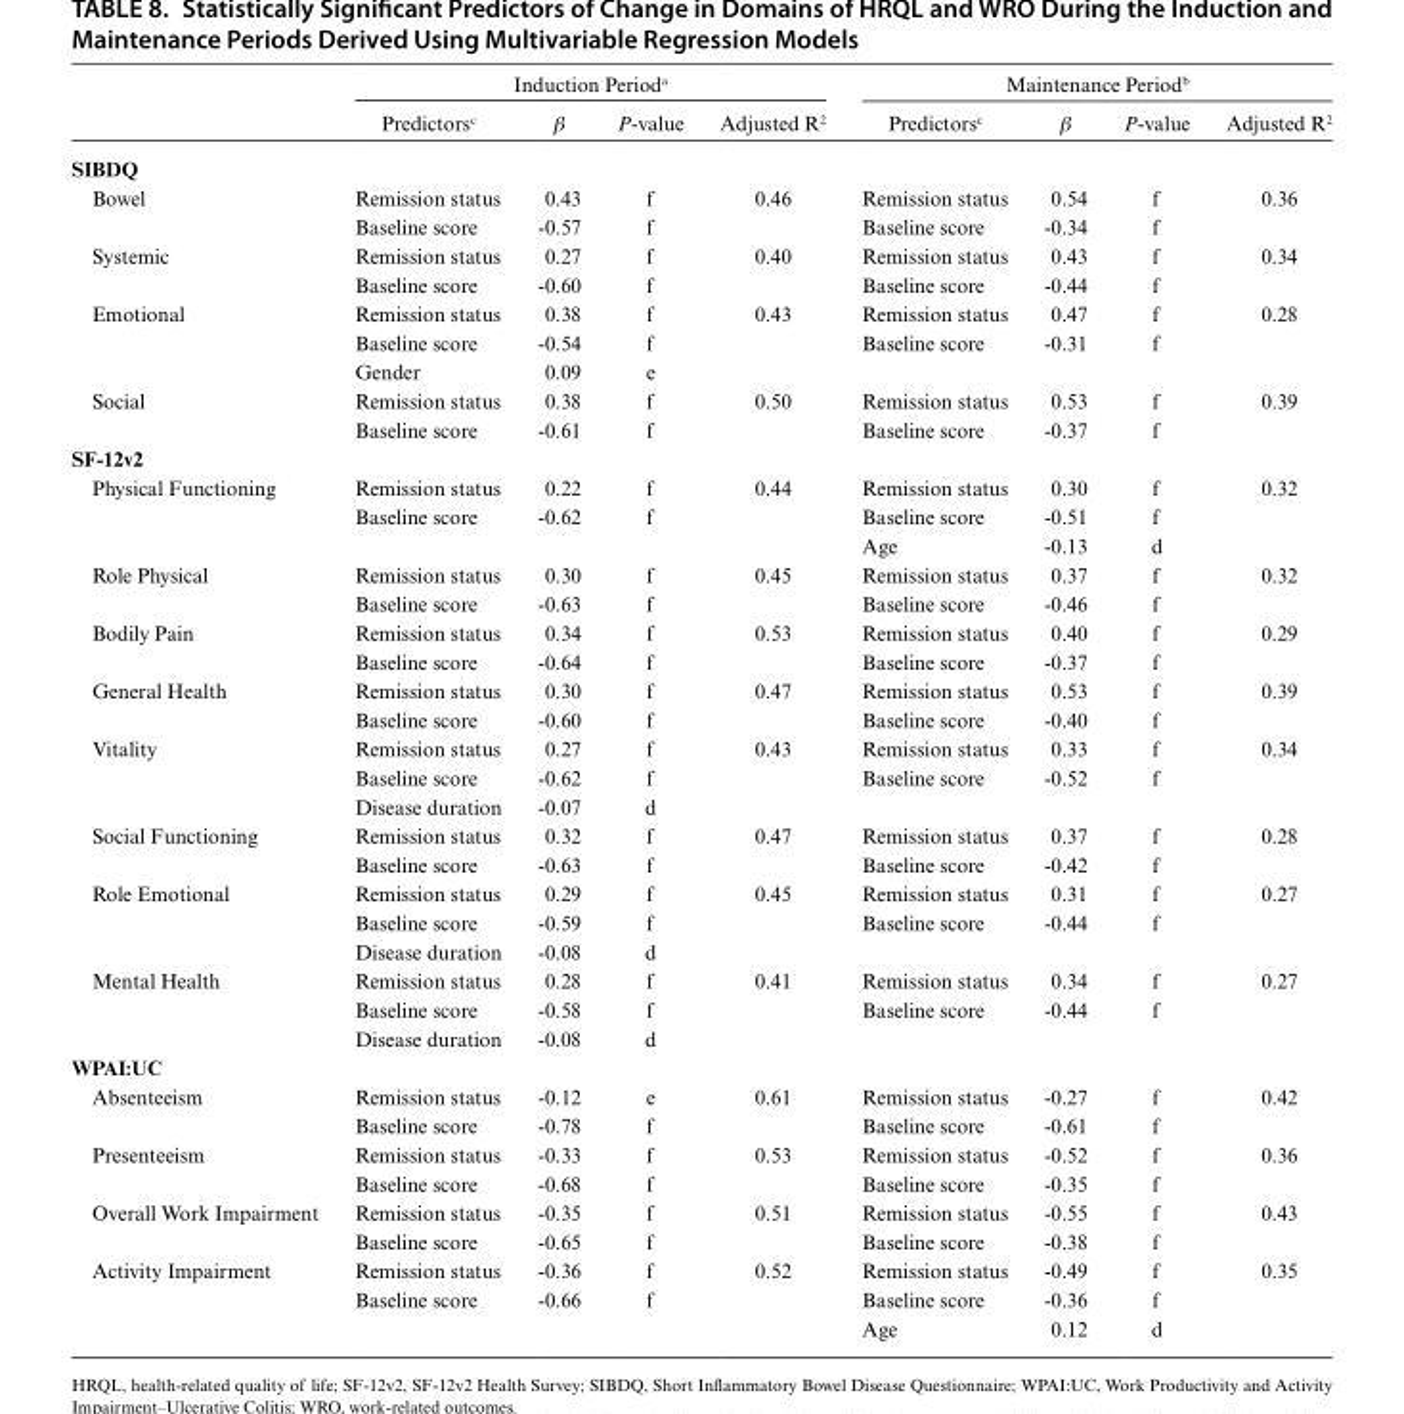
<table><thead><tr><td rowspan="2"></td><td colspan="4">Induction Period<sup>a</sup></td><td colspan="4">Maintenance Period<sup>b</sup></td></tr><tr><td>Predictors<sup>c</sup></td><td>β</td><td>P-value</td><td>Adjusted R<sup>2</sup></td><td>Predictors<sup>c</sup></td><td>β</td><td>P-value</td><td>Adjusted R<sup>2</sup></td></tr></thead><tbody><tr><td colspan="9">SIBDQ</td></tr><tr><td rowspan="2">Bowel</td><td>Remission status</td><td>0.43</td><td>f</td><td>0.46</td><td>Remission status</td><td>0.54</td><td>f</td><td>0.36</td></tr><tr><td>Baseline score</td><td>-0.57</td><td>f</td><td></td><td>Baseline score</td><td>-0.34</td><td>f</td><td></td></tr><tr><td rowspan="2">Systemic</td><td>Remission status</td><td>0.27</td><td>f</td><td>0.40</td><td>Remission status</td><td>0.43</td><td>f</td><td>0.34</td></tr><tr><td>Baseline score</td><td>-0.60</td><td>f</td><td></td><td>Baseline score</td><td>-0.44</td><td>f</td><td></td></tr><tr><td rowspan="3">Emotional</td><td>Remission status</td><td>0.38</td><td>f</td><td>0.43</td><td>Remission status</td><td>0.47</td><td>f</td><td>0.28</td></tr><tr><td>Baseline score</td><td>-0.54</td><td>f</td><td></td><td>Baseline score</td><td>-0.31</td><td>f</td><td></td></tr><tr><td>Gender</td><td>0.09</td><td>e</td><td></td><td></td><td></td><td></td><td></td></tr><tr><td rowspan="2">Social</td><td>Remission status</td><td>0.38</td><td>f</td><td>0.50</td><td>Remission status</td><td>0.53</td><td>f</td><td>0.39</td></tr><tr><td>Baseline score</td><td>-0.61</td><td>f</td><td></td><td>Baseline score</td><td>-0.37</td><td>f</td><td></td></tr><tr><td colspan="9">SF-12v2</td></tr><tr><td rowspan="3">Physical Functioning</td><td>Remission status</td><td>0.22</td><td>f</td><td>0.44</td><td>Remission status</td><td>0.30</td><td>f</td><td>0.32</td></tr><tr><td>Baseline score</td><td>-0.62</td><td>f</td><td></td><td>Baseline score</td><td>-0.51</td><td>f</td><td></td></tr><tr><td></td><td></td><td></td><td></td><td>Age</td><td>-0.13</td><td>d</td><td></td></tr><tr><td rowspan="2">Role Physical</td><td>Remission status</td><td>0.30</td><td>f</td><td>0.45</td><td>Remission status</td><td>0.37</td><td>f</td><td>0.32</td></tr><tr><td>Baseline score</td><td>-0.63</td><td>f</td><td></td><td>Baseline score</td><td>-0.46</td><td>f</td><td></td></tr><tr><td rowspan="2">Bodily Pain</td><td>Remission status</td><td>0.34</td><td>f</td><td>0.53</td><td>Remission status</td><td>0.40</td><td>f</td><td>0.29</td></tr><tr><td>Baseline score</td><td>-0.64</td><td>f</td><td></td><td>Baseline score</td><td>-0.37</td><td>f</td><td></td></tr><tr><td rowspan="2">General Health</td><td>Remission status</td><td>0.30</td><td>f</td><td>0.47</td><td>Remission status</td><td>0.53</td><td>f</td><td>0.39</td></tr><tr><td>Baseline score</td><td>-0.60</td><td>f</td><td></td><td>Baseline score</td><td>-0.40</td><td>f</td><td></td></tr><tr><td rowspan="3">Vitality</td><td>Remission status</td><td>0.27</td><td>f</td><td>0.43</td><td>Remission status</td><td>0.33</td><td>f</td><td>0.34</td></tr><tr><td>Baseline score</td><td>-0.62</td><td>f</td><td></td><td>Baseline score</td><td>-0.52</td><td>f</td><td></td></tr><tr><td>Disease duration</td><td>-0.07</td><td>d</td><td></td><td></td><td></td><td></td><td></td></tr><tr><td rowspan="2">Social Functioning</td><td>Remission status</td><td>0.32</td><td>f</td><td>0.47</td><td>Remission status</td><td>0.37</td><td>f</td><td>0.28</td></tr><tr><td>Baseline score</td><td>-0.63</td><td>f</td><td></td><td>Baseline score</td><td>-0.42</td><td>f</td><td></td></tr><tr><td rowspan="3">Role Emotional</td><td>Remission status</td><td>0.29</td><td>f</td><td>0.45</td><td>Remission status</td><td>0.31</td><td>f</td><td>0.27</td></tr><tr><td>Baseline score</td><td>-0.59</td><td>f</td><td></td><td>Baseline score</td><td>-0.44</td><td>f</td><td></td></tr><tr><td>Disease duration</td><td>-0.08</td><td>d</td><td></td><td></td><td></td><td></td><td></td></tr><tr><td rowspan="3">Mental Health</td><td>Remission status</td><td>0.28</td><td>f</td><td>0.41</td><td>Remission status</td><td>0.34</td><td>f</td><td>0.27</td></tr><tr><td>Baseline score</td><td>-0.58</td><td>f</td><td></td><td>Baseline score</td><td>-0.44</td><td>f</td><td></td></tr><tr><td>Disease duration</td><td>-0.08</td><td>d</td><td></td><td></td><td></td><td></td><td></td></tr><tr><td colspan="9">WPAI:UC</td></tr><tr><td rowspan="2">Absenteeism</td><td>Remission status</td><td>-0.12</td><td>e</td><td>0.61</td><td>Remission status</td><td>-0.27</td><td>f</td><td>0.42</td></tr><tr><td>Baseline score</td><td>-0.78</td><td>f</td><td></td><td>Baseline score</td><td>-0.61</td><td>f</td><td></td></tr><tr><td rowspan="2">Presenteeism</td><td>Remission status</td><td>-0.33</td><td>f</td><td>0.53</td><td>Remission status</td><td>-0.52</td><td>f</td><td>0.36</td></tr><tr><td>Baseline score</td><td>-0.68</td><td>f</td><td></td><td>Baseline score</td><td>-0.35</td><td>f</td><td></td></tr><tr><td rowspan="2">Overall Work Impairment</td><td>Remission status</td><td>-0.35</td><td>f</td><td>0.51</td><td>Remission status</td><td>-0.55</td><td>f</td><td>0.43</td></tr><tr><td>Baseline score</td><td>-0.65</td><td>f</td><td></td><td>Baseline score</td><td>-0.38</td><td>f</td><td></td></tr><tr><td rowspan="3">Activity Impairment</td><td>Remission status</td><td>-0.36</td><td>f</td><td>0.52</td><td>Remission status</td><td>-0.49</td><td>f</td><td>0.35</td></tr><tr><td>Baseline score</td><td>-0.66</td><td>f</td><td></td><td>Baseline score</td><td>-0.36</td><td>f</td><td></td></tr><tr><td></td><td></td><td></td><td></td><td>Age</td><td>0.12</td><td>d</td><td></td></tr></tbody></table>